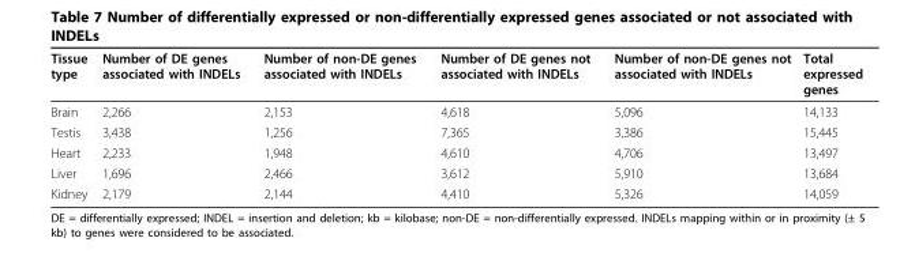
<table><thead><tr><td>Tissue type</td><td>Number of DE genes associated with INDELs</td><td>Number of non-DE genes associated with INDELs</td><td>Number of DE genes not associated with INDELs</td><td>Number of non-DE genes not associated with INDELs</td><td>Total expressed genes</td></tr></thead><tbody><tr><td>Brain</td><td>2,266</td><td>2,153</td><td>4,618</td><td>5,096</td><td>14,133</td></tr><tr><td>Testis</td><td>3,438</td><td>1,256</td><td>7,365</td><td>3,386</td><td>15,445</td></tr><tr><td>Heart</td><td>2,233</td><td>1,948</td><td>4,610</td><td>4,706</td><td>13,497</td></tr><tr><td>Liver</td><td>1,696</td><td>2,466</td><td>3,612</td><td>5,910</td><td>13,684</td></tr><tr><td>Kidney</td><td>2,179</td><td>2,144</td><td>4,410</td><td>5,326</td><td>14,059</td></tr></tbody></table>